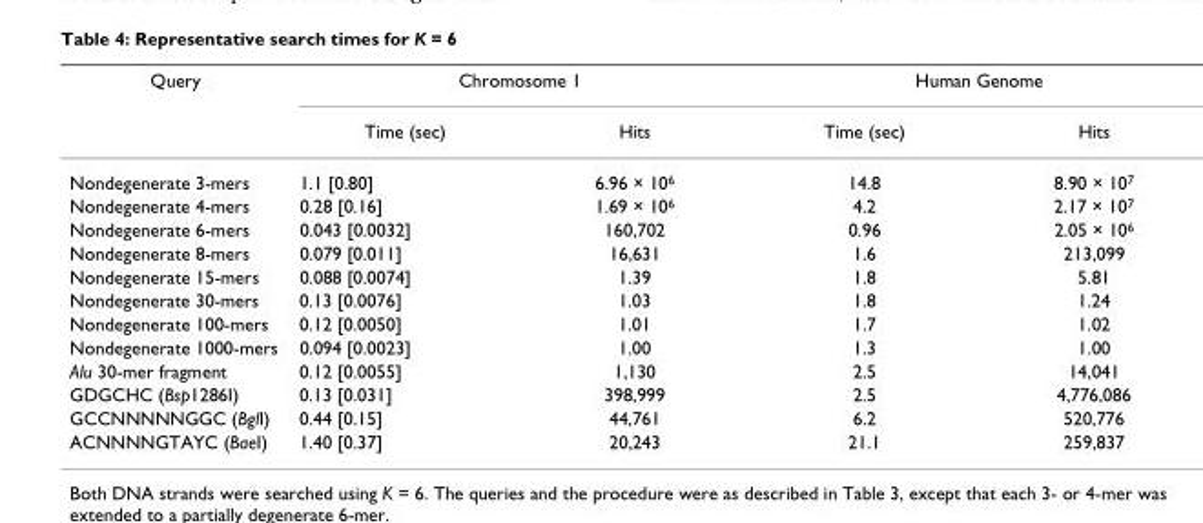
<table><thead><tr><td rowspan="2">Query</td><td colspan="2">Chromosome 1</td><td colspan="2">Human Genome</td></tr><tr><td>Time (sec)</td><td>Hits</td><td>Time (sec)</td><td>Hits</td></tr></thead><tbody><tr><td>Nondegenerate 3-mers</td><td>1.1 [0.80]</td><td>6.96 × 10<sup>6</sup></td><td>14.8</td><td>8.90 × 10<sup>7</sup></td></tr><tr><td>Nondegenerate 4-mers</td><td>0.28 [0.16]</td><td>1.69 × 10<sup>6</sup></td><td>4.2</td><td>2.17 × 10<sup>7</sup></td></tr><tr><td>Nondegenerate 6-mers</td><td>0.043 [0.0032]</td><td>160,702</td><td>0.96</td><td>2.05 × 10<sup>6</sup></td></tr><tr><td>Nondegenerate 8-mers</td><td>0.079 [0.011]</td><td>16,631</td><td>1.6</td><td>213,099</td></tr><tr><td>Nondegenerate 15-mers</td><td>0.088 [0.0074]</td><td>1.39</td><td>1.8</td><td>5.81</td></tr><tr><td>Nondegenerate 30-mers</td><td>0.13 [0.0076]</td><td>1.03</td><td>1.8</td><td>1.24</td></tr><tr><td>Nondegenerate 100-mers</td><td>0.12 [0.0050]</td><td>1.01</td><td>1.7</td><td>1.02</td></tr><tr><td>Nondegenerate 1000-mers</td><td>0.094 [0.0023]</td><td>1.00</td><td>1.3</td><td>1.00</td></tr><tr><td>Alu 30-mer fragment</td><td>0.12 [0.0055]</td><td>1,130</td><td>2.5</td><td>14,041</td></tr><tr><td>GDGCHC (Bsp1286I)</td><td>0.13 [0.031]</td><td>398,999</td><td>2.5</td><td>4,776,086</td></tr><tr><td>GCCNNNNNGGC (BglI)</td><td>0.44 [0.15]</td><td>44,761</td><td>6.2</td><td>520,776</td></tr><tr><td>ACNNNNGTAYC (BaeI)</td><td>1.40 [0.37]</td><td>20,243</td><td>21.1</td><td>259,837</td></tr></tbody></table>